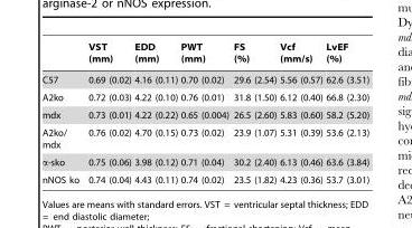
<table><thead><tr><td></td><td>VST (mm)</td><td>EDD (mm)</td><td>PWT (mm)</td><td>FS (%)</td><td>Vcf (mm/s)</td><td>LvEF (%)</td></tr></thead><tbody><tr><td>C57</td><td>0.69 (0.02)</td><td>4.16 (0.11)</td><td>0.70 (0.02)</td><td>29.6 (2.54)</td><td>5.56 (0.57)</td><td>62.6 (3.51)</td></tr><tr><td>A2ko</td><td>0.72 (0.03)</td><td>4.22 (0.10)</td><td>0.76 (0.01)</td><td>31.8 (1.50)</td><td>6.12 (0.40)</td><td>66.8 (2.30)</td></tr><tr><td>mdx</td><td>0.73 (0.01)</td><td>4.22 (0.22)</td><td>0.65 (0.004)</td><td>26.5 (2.60)</td><td>5.83 (0.60)</td><td>58.2 (5.20)</td></tr><tr><td>A2ko/ mdx</td><td>0.76 (0.02)</td><td>4.70 (0.15)</td><td>0.73 (0.02)</td><td>23.9 (1.07)</td><td>5.31 (0.39)</td><td>53.6 (2.13)</td></tr><tr><td>α-sko</td><td>0.75 (0.06)</td><td>3.98 (0.12)</td><td>0.71 (0.04)</td><td>30.2 (2.40)</td><td>6.13 (0.46)</td><td>63.6 (3.84)</td></tr><tr><td>nNOS ko</td><td>0.74 (0.04)</td><td>4.43 (0.11)</td><td>0.74 (0.02)</td><td>23.5 (1.82)</td><td>4.23 (0.36)</td><td>53.7 (3.01)</td></tr></tbody></table>